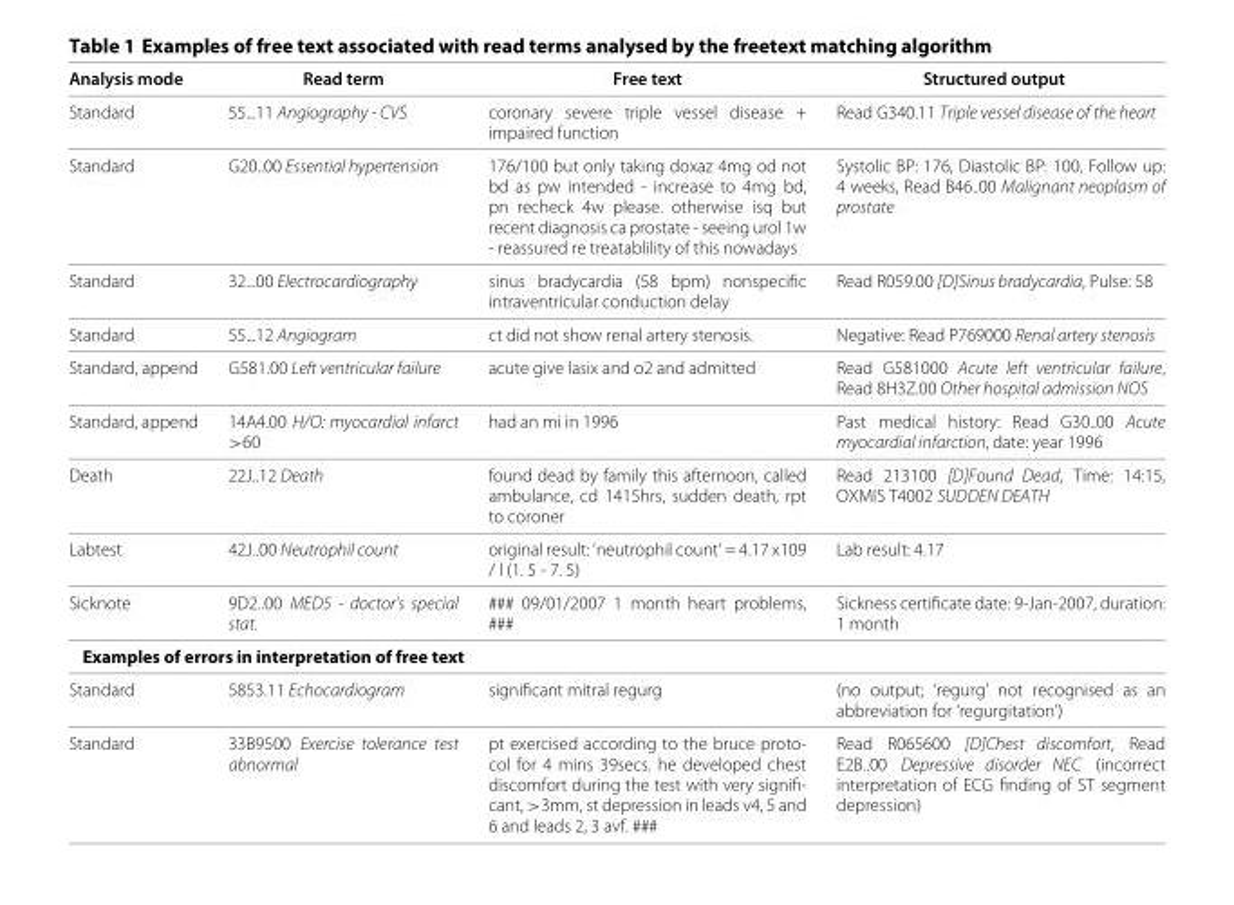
<table><thead><tr><td>Analysis mode</td><td>Read term</td><td>Free text</td><td>Structured output</td></tr></thead><tbody><tr><td>Standard</td><td>55...11 Angiography - CVS</td><td>coronary severe triple vessel disease + impaired function</td><td>Read G340.11 Triple vessel disease of the heart</td></tr><tr><td>Standard</td><td>G20..00 Essential hypertension</td><td>176/100 but only taking doxaz 4mg od not bd as pw intended - increase to 4mg bd, pn recheck 4w please. otherwise isq but recent diagnosis ca prostate - seeing urol 1w - reassured re treatablility of this nowadays</td><td>Systolic BP: 176, Diastolic BP: 100, Follow up: 4 weeks, Read B46..00 Malignant neoplasm of prostate</td></tr><tr><td>Standard</td><td>32...00 Electrocardiography</td><td>sinus bradycardia (58 bpm) nonspecific intraventricular conduction delay</td><td>Read R059.00 [D]Sinus bradycardia, Pulse: 58</td></tr><tr><td>Standard</td><td>55...12 Angiogram</td><td>ct did not show renal artery stenosis.</td><td>Negative: Read P769000 Renal artery stenosis</td></tr><tr><td>Standard, append</td><td>G581.00 Left ventricular failure</td><td>acute give lasix and o2 and admitted</td><td>Read G581000 Acute left ventricular failure, Read 8H3Z.00 Other hospital admission NOS</td></tr><tr><td>Standard, append</td><td>14A4.00 H/O: myocardial infarct &gt;60</td><td>had an mi in 1996</td><td>Past medical history: Read G30..00 Acute myocardial infarction, date: year 1996</td></tr><tr><td>Death</td><td>22J..12 Death</td><td>found dead by family this afternoon, called ambulance, cd 1415hrs, sudden death, rpt to coroner</td><td>Read 213100 [D]Found Dead, Time: 14:15, OXMIS T4002 SUDDEN DEATH</td></tr><tr><td>Labtest</td><td>42J..00 Neutrophil count</td><td>original result: ’neutrophil count’ = 4.17 x109 / l (1. 5 - 7. 5)</td><td>Lab result: 4.17</td></tr><tr><td>Sicknote</td><td>9D2..00 MED5 - doctor’s special stat.</td><td>### 09/01/2007 1 month heart problems, ###</td><td>Sickness certificate date: 9-Jan-2007, duration: 1 month</td></tr><tr><td colspan="4">Examples of errors in interpretation of free text</td></tr><tr><td>Standard</td><td>5853.11 Echocardiogram</td><td>significant mitral regurg</td><td>(no output; ‘regurg’ not recognised as an abbreviation for ‘regurgitation’)</td></tr><tr><td>Standard</td><td>33B9500 Exercise tolerance test abnormal</td><td>pt exercised according to the bruce proto- col for 4 mins 39secs. he developed chest discomfort during the test with very signifi- cant, &gt;3mm, st depression in leads v4, 5 and 6 and leads 2, 3 avf. ###</td><td>Read R065600 [D]Chest discomfort, Read E2B..00 Depressive disorder NEC (incorrect interpretation of ECG finding of ST segment depression)</td></tr></tbody></table>